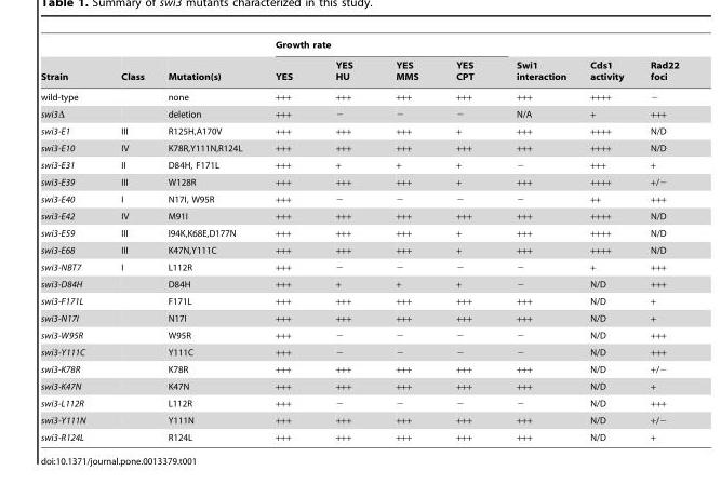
<table><thead><tr><td rowspan="2">Strain</td><td rowspan="2">Class</td><td rowspan="2">Mutation(s)</td><td colspan="4">Growth rate</td><td rowspan="2">Swi1 interaction</td><td rowspan="2">Cds1 activity</td><td rowspan="2">Rad22 foci</td></tr><tr><td>YES</td><td>YES HU</td><td>YES MMS</td><td>YES CPT</td></tr></thead><tbody><tr><td>wild-type</td><td></td><td>none</td><td>+++</td><td>+++</td><td>+++</td><td>+++</td><td>+++</td><td>++++</td><td>−</td></tr><tr><td>swi3Δ</td><td></td><td>deletion</td><td>+++</td><td>−</td><td>−</td><td>−</td><td>N/A</td><td>+</td><td>+++</td></tr><tr><td>swi3-E1</td><td>III</td><td>R125H,A170V</td><td>+++</td><td>+++</td><td>+++</td><td>+</td><td>+++</td><td>++++</td><td>N/D</td></tr><tr><td>swi3-E10</td><td>IV</td><td>K78R,Y111N,R124L</td><td>+++</td><td>+++</td><td>+++</td><td>+++</td><td>+++</td><td>++++</td><td>N/D</td></tr><tr><td>swi3-E31</td><td>II</td><td>D84H, F171L</td><td>+++</td><td>+</td><td>+</td><td>+</td><td>−</td><td>+++</td><td>+</td></tr><tr><td>swi3-E39</td><td>III</td><td>W128R</td><td>+++</td><td>+++</td><td>+++</td><td>+</td><td>+++</td><td>++++</td><td>+/−</td></tr><tr><td>swi3-E40</td><td>I</td><td>N17I, W95R</td><td>+++</td><td>−</td><td>−</td><td>−</td><td>−</td><td>++</td><td>+++</td></tr><tr><td>swi3-E42</td><td>IV</td><td>M91I</td><td>+++</td><td>+++</td><td>+++</td><td>+++</td><td>+++</td><td>++++</td><td>N/D</td></tr><tr><td>swi3-E59</td><td>III</td><td>I94K,K68E,D177N</td><td>+++</td><td>+++</td><td>+++</td><td>+</td><td>+++</td><td>++++</td><td>N/D</td></tr><tr><td>swi3-E68</td><td>III</td><td>K47N,Y111C</td><td>+++</td><td>+++</td><td>+++</td><td>+</td><td>+++</td><td>++++</td><td>N/D</td></tr><tr><td>swi3-NBT7</td><td>I</td><td>L112R</td><td>+++</td><td>−</td><td>−</td><td>−</td><td>−</td><td>+</td><td>+++</td></tr><tr><td>swi3-D84H</td><td></td><td>D84H</td><td>+++</td><td>+</td><td>+</td><td>+</td><td>−</td><td>N/D</td><td>+++</td></tr><tr><td>swi3-F171L</td><td></td><td>F171L</td><td>+++</td><td>+++</td><td>+++</td><td>+++</td><td>+++</td><td>N/D</td><td>+</td></tr><tr><td>swi3-N17I</td><td></td><td>N17I</td><td>+++</td><td>+++</td><td>+++</td><td>+++</td><td>+++</td><td>N/D</td><td>+</td></tr><tr><td>swi3-W95R</td><td></td><td>W95R</td><td>+++</td><td>−</td><td>−</td><td>−</td><td>−</td><td>N/D</td><td>+++</td></tr><tr><td>swi3-Y111C</td><td></td><td>Y111C</td><td>+++</td><td>−</td><td>−</td><td>−</td><td>−</td><td>N/D</td><td>+++</td></tr><tr><td>swi3-K78R</td><td></td><td>K78R</td><td>+++</td><td>+++</td><td>+++</td><td>+++</td><td>+++</td><td>N/D</td><td>+/−</td></tr><tr><td>swi3-K47N</td><td></td><td>K47N</td><td>+++</td><td>+++</td><td>+++</td><td>+++</td><td>+++</td><td>N/D</td><td>+</td></tr><tr><td>swi3-L112R</td><td></td><td>L112R</td><td>+++</td><td>−</td><td>−</td><td>−</td><td>−</td><td>N/D</td><td>+++</td></tr><tr><td>swi3-Y111N</td><td></td><td>Y111N</td><td>+++</td><td>+++</td><td>+++</td><td>+++</td><td>+++</td><td>N/D</td><td>+/−</td></tr><tr><td>swi3-R124L</td><td></td><td>R124L</td><td>+++</td><td>+++</td><td>+++</td><td>+++</td><td>+++</td><td>N/D</td><td>+</td></tr></tbody></table>